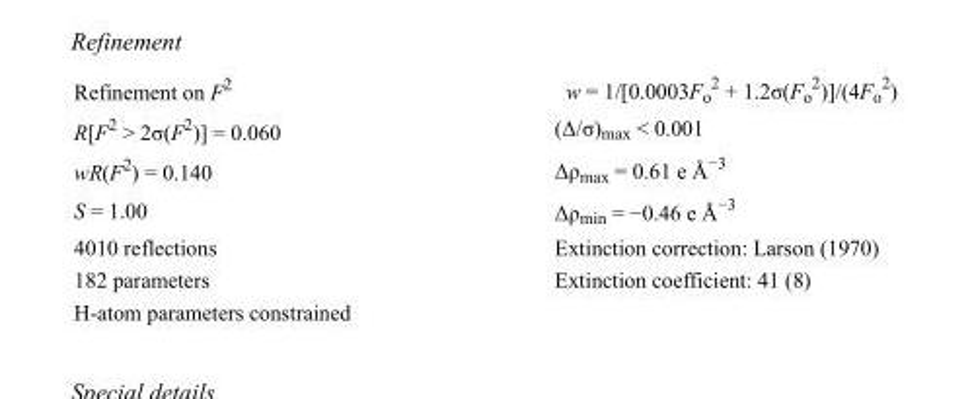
<table><tbody><tr><td>Refinement on F<sup>2</sup></td><td>w = 1/[0.0003F<sub>o</sub> <sup>2</sup> + 1.2σ(F<sub>o</sub> <sup>2</sup>)]/(4F<sub>o</sub> <sup>2</sup>)</td></tr><tr><td>R[F<sup>2</sup> &gt; 2σ(F<sup>2</sup>)] = 0.060</td><td>(Δ/σ)<sub>max</sub> &lt; 0.001</td></tr><tr><td>wR(F<sup>2</sup>) = 0.140</td><td>Δρ<sub>max</sub> = 0.61 e Å<sup>−3</sup></td></tr><tr><td>S = 1.00</td><td>Δρ<sub>min</sub> = −0.46 e Å<sup>−3</sup></td></tr><tr><td>4010 reflections</td><td>Extinction correction: Larson (1970)</td></tr><tr><td>182 parameters</td><td>Extinction coefficient: 41 (8)</td></tr><tr><td>H-atom parameters constrained</td><td></td></tr></tbody></table>